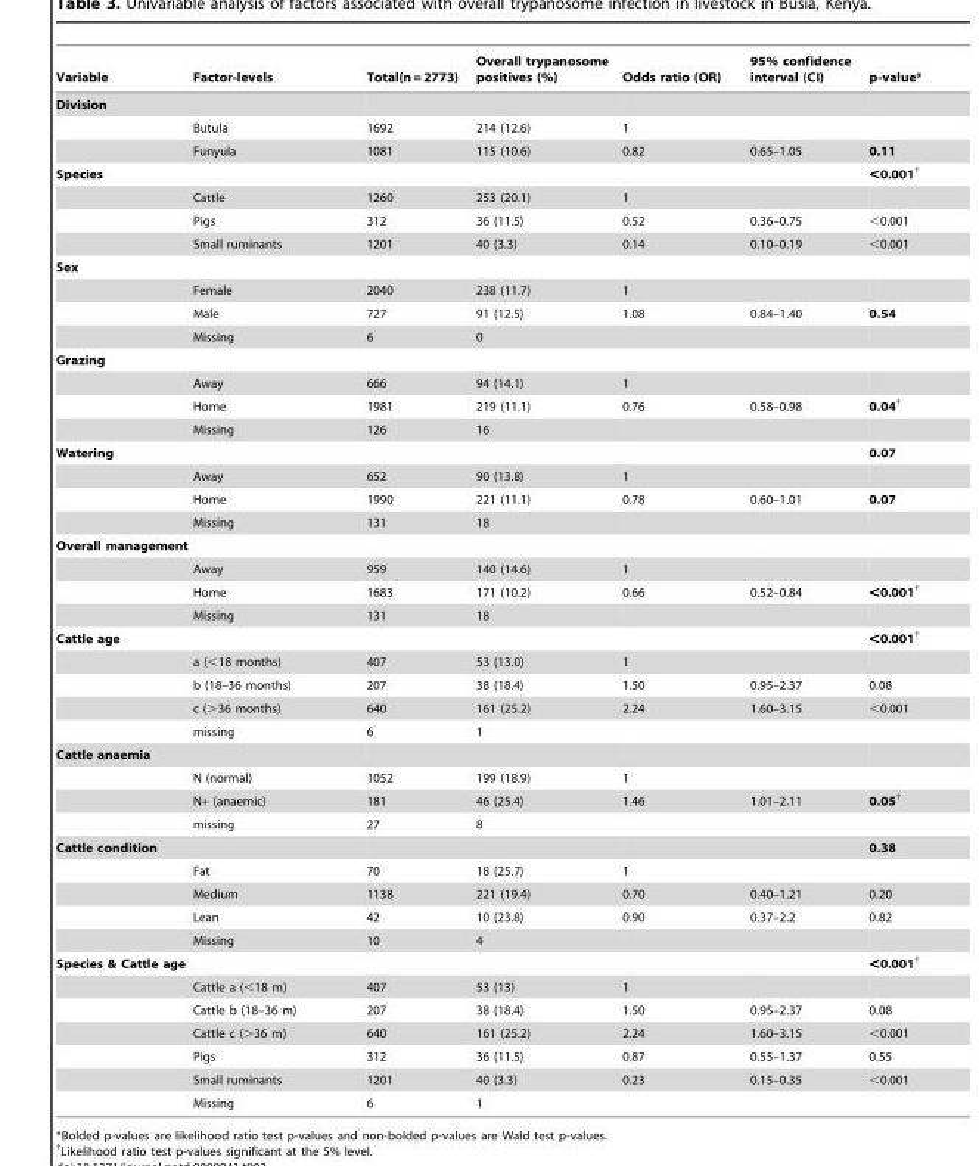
<table><thead><tr><td>Variable</td><td>Factor-levels</td><td>Total(n = 2773)</td><td>Overall trypanosome positives (%)</td><td>Odds ratio (OR)</td><td>95% confidence interval (CI)</td><td>p-value*</td></tr></thead><tbody><tr><td colspan="7">Division</td></tr><tr><td></td><td>Butula</td><td>1692</td><td>214 (12.6)</td><td>1</td><td></td><td></td></tr><tr><td></td><td>Funyula</td><td>1081</td><td>115 (10.6)</td><td>0.82</td><td>0.65–1.05</td><td>0.11</td></tr><tr><td colspan="2">Species</td><td></td><td></td><td></td><td></td><td>&lt;0.001†</td></tr><tr><td></td><td>Cattle</td><td>1260</td><td>253 (20.1)</td><td>1</td><td></td><td></td></tr><tr><td></td><td>Pigs</td><td>312</td><td>36 (11.5)</td><td>0.52</td><td>0.36–0.75</td><td>&lt;0.001</td></tr><tr><td></td><td>Small ruminants</td><td>1201</td><td>40 (3.3)</td><td>0.14</td><td>0.10–0.19</td><td>&lt;0.001</td></tr><tr><td colspan="7">Sex</td></tr><tr><td></td><td>Female</td><td>2040</td><td>238 (11.7)</td><td>1</td><td></td><td></td></tr><tr><td></td><td>Male</td><td>727</td><td>91 (12.5)</td><td>1.08</td><td>0.84–1.40</td><td>0.54</td></tr><tr><td></td><td>Missing</td><td>6</td><td>0</td><td></td><td></td><td></td></tr><tr><td colspan="7">Grazing</td></tr><tr><td></td><td>Away</td><td>666</td><td>94 (14.1)</td><td>1</td><td></td><td></td></tr><tr><td></td><td>Home</td><td>1981</td><td>219 (11.1)</td><td>0.76</td><td>0.58–0.98</td><td>0.04†</td></tr><tr><td></td><td>Missing</td><td>126</td><td>16</td><td></td><td></td><td></td></tr><tr><td colspan="2">Watering</td><td></td><td></td><td></td><td></td><td>0.07</td></tr><tr><td></td><td>Away</td><td>652</td><td>90 (13.8)</td><td>1</td><td></td><td></td></tr><tr><td></td><td>Home</td><td>1990</td><td>221 (11.1)</td><td>0.78</td><td>0.60–1.01</td><td>0.07</td></tr><tr><td></td><td>Missing</td><td>131</td><td>18</td><td></td><td></td><td></td></tr><tr><td colspan="7">Overall management</td></tr><tr><td></td><td>Away</td><td>959</td><td>140 (14.6)</td><td>1</td><td></td><td></td></tr><tr><td></td><td>Home</td><td>1683</td><td>171 (10.2)</td><td>0.66</td><td>0.52–0.84</td><td>&lt;0.001†</td></tr><tr><td></td><td>Missing</td><td>131</td><td>18</td><td></td><td></td><td></td></tr><tr><td colspan="2">Cattle age</td><td></td><td></td><td></td><td></td><td>&lt;0.001†</td></tr><tr><td></td><td>a (&lt;18 months)</td><td>407</td><td>53 (13.0)</td><td>1</td><td></td><td></td></tr><tr><td></td><td>b (18–36 months)</td><td>207</td><td>38 (18.4)</td><td>1.50</td><td>0.95–2.37</td><td>0.08</td></tr><tr><td></td><td>c (&gt;36 months)</td><td>640</td><td>161 (25.2)</td><td>2.24</td><td>1.60–3.15</td><td>&lt;0.001</td></tr><tr><td></td><td>missing</td><td>6</td><td>1</td><td></td><td></td><td></td></tr><tr><td colspan="7">Cattle anaemia</td></tr><tr><td></td><td>N (normal)</td><td>1052</td><td>199 (18.9)</td><td>1</td><td></td><td></td></tr><tr><td></td><td>N+ (anaemic)</td><td>181</td><td>46 (25.4)</td><td>1.46</td><td>1.01–2.11</td><td>0.05†</td></tr><tr><td></td><td>missing</td><td>27</td><td>8</td><td></td><td></td><td></td></tr><tr><td colspan="2">Cattle condition</td><td></td><td></td><td></td><td></td><td>0.38</td></tr><tr><td></td><td>Fat</td><td>70</td><td>18 (25.7)</td><td>1</td><td></td><td></td></tr><tr><td></td><td>Medium</td><td>1138</td><td>221 (19.4)</td><td>0.70</td><td>0.40–1.21</td><td>0.20</td></tr><tr><td></td><td>Lean</td><td>42</td><td>10 (23.8)</td><td>0.90</td><td>0.37–2.2</td><td>0.82</td></tr><tr><td></td><td>Missing</td><td>10</td><td>4</td><td></td><td></td><td></td></tr><tr><td colspan="2">Species &amp; Cattle age</td><td></td><td></td><td></td><td></td><td>&lt;0.001†</td></tr><tr><td></td><td>Cattle a (&lt;18 m)</td><td>407</td><td>53 (13)</td><td>1</td><td></td><td></td></tr><tr><td></td><td>Cattle b (18–36 m)</td><td>207</td><td>38 (18.4)</td><td>1.50</td><td>0.95–2.37</td><td>0.08</td></tr><tr><td></td><td>Cattle c (&gt;36 m)</td><td>640</td><td>161 (25.2)</td><td>2.24</td><td>1.60–3.15</td><td>&lt;0.001</td></tr><tr><td></td><td>Pigs</td><td>312</td><td>36 (11.5)</td><td>0.87</td><td>0.55–1.37</td><td>0.55</td></tr><tr><td></td><td>Small ruminants</td><td>1201</td><td>40 (3.3)</td><td>0.23</td><td>0.15–0.35</td><td>&lt;0.001</td></tr><tr><td></td><td>Missing</td><td>6</td><td>1</td><td></td><td></td><td></td></tr></tbody></table>